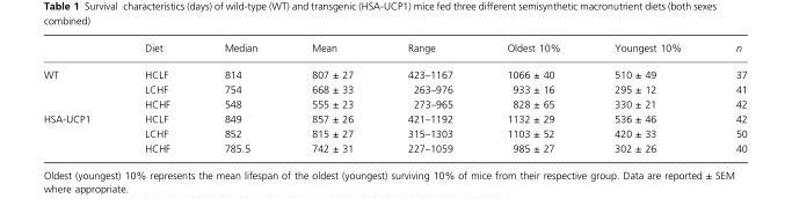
<table><thead><tr><td></td><td>Diet</td><td>Median</td><td>Mean</td><td>Range</td><td>Oldest 10%</td><td>Youngest 10%</td><td>n</td></tr></thead><tbody><tr><td rowspan="3">WT</td><td>HCLF</td><td>814</td><td>807 ± 27</td><td>423–1167</td><td>1066 ± 40</td><td>510 ± 49</td><td>37</td></tr><tr><td>LCHF</td><td>754</td><td>668 ± 33</td><td>263–976</td><td>933 ± 16</td><td>295 ± 12</td><td>41</td></tr><tr><td>HCHF</td><td>548</td><td>555 ± 23</td><td>273–965</td><td>828 ± 65</td><td>330 ± 21</td><td>42</td></tr><tr><td rowspan="3">HSA-UCP1</td><td>HCLF</td><td>849</td><td>857 ± 26</td><td>421–1192</td><td>1132 ± 29</td><td>536 ± 46</td><td>42</td></tr><tr><td>LCHF</td><td>852</td><td>815 ± 27</td><td>315–1303</td><td>1103 ± 52</td><td>420 ± 33</td><td>50</td></tr><tr><td>HCHF</td><td>785.5</td><td>742 ± 31</td><td>227–1059</td><td>985 ± 27</td><td>302 ± 26</td><td>40</td></tr></tbody></table>